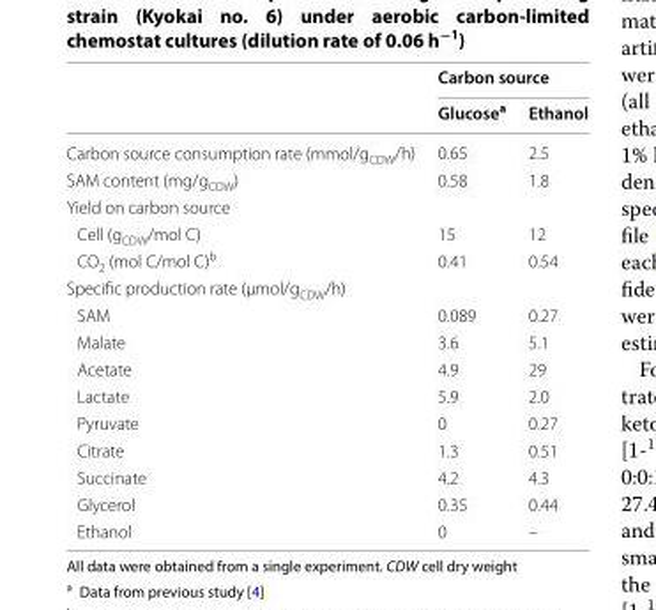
<table><thead><tr><td rowspan="2"></td><td colspan="2">Carbon source</td></tr><tr><td>Glucose<sup>a</sup></td><td>Ethanol</td></tr></thead><tbody><tr><td>Carbon source consumption rate (mmol/g<sub>CDW</sub>/h)</td><td>0.65</td><td>2.5</td></tr><tr><td>SAM content (mg/g<sub>CDW</sub>)</td><td>0.58</td><td>1.8</td></tr><tr><td colspan="3">Yield on carbon source</td></tr><tr><td>Cell (g<sub>CDW</sub>/mol C)</td><td>15</td><td>12</td></tr><tr><td>CO<sub>2</sub> (mol C/mol C)<sup>b</sup></td><td>0.41</td><td>0.54</td></tr><tr><td colspan="3">Specific production rate (μmol/g<sub>CDW</sub>/h)</td></tr><tr><td>SAM</td><td>0.089</td><td>0.27</td></tr><tr><td>Malate</td><td>3.6</td><td>5.1</td></tr><tr><td>Acetate</td><td>4.9</td><td>29</td></tr><tr><td>Lactate</td><td>5.9</td><td>2.0</td></tr><tr><td>Pyruvate</td><td>0</td><td>0.27</td></tr><tr><td>Citrate</td><td>1.3</td><td>0.51</td></tr><tr><td>Succinate</td><td>4.2</td><td>4.3</td></tr><tr><td>Glycerol</td><td>0.35</td><td>0.44</td></tr><tr><td>Ethanol</td><td>0</td><td>–</td></tr></tbody></table>